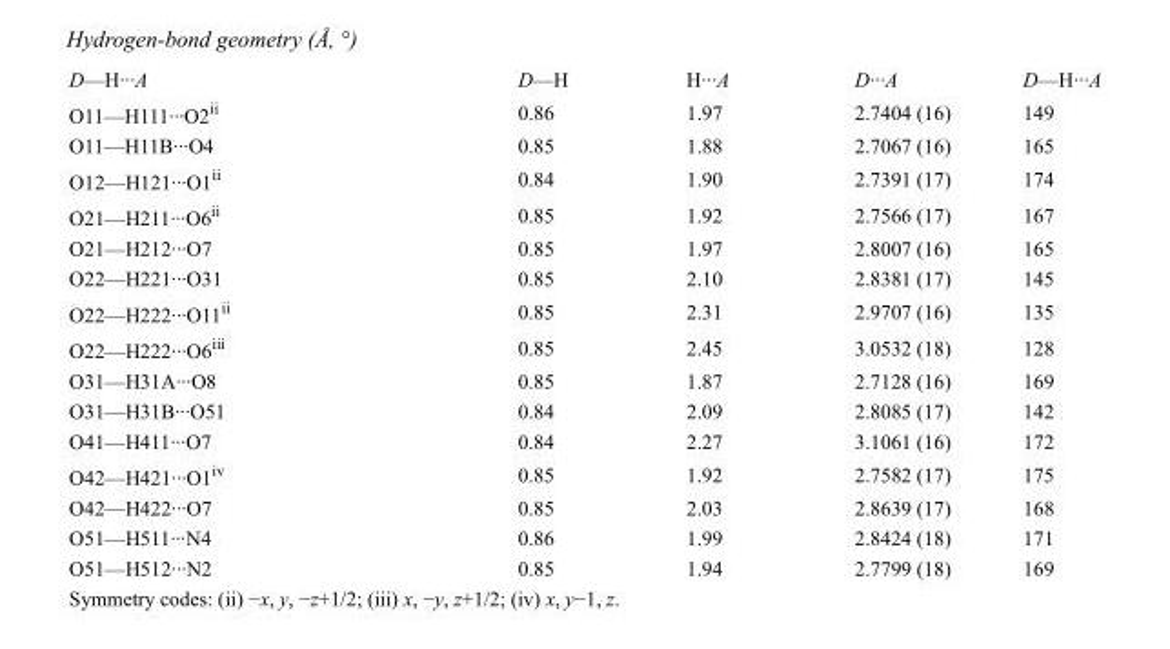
<table><tbody><tr><td>D—H···A</td><td>D—H</td><td>H···A</td><td>D···A</td><td>D—H···A</td></tr><tr><td>O11—H111···O2<sup>ii</sup></td><td>0.86</td><td>1.97</td><td>2.7404 (16)</td><td>149</td></tr><tr><td>O11—H11B···O4</td><td>0.85</td><td>1.88</td><td>2.7067 (16)</td><td>165</td></tr><tr><td>O12—H121···O1<sup>ii</sup></td><td>0.84</td><td>1.90</td><td>2.7391 (17)</td><td>174</td></tr><tr><td>O21—H211···O6<sup>ii</sup></td><td>0.85</td><td>1.92</td><td>2.7566 (17)</td><td>167</td></tr><tr><td>O21—H212···O7</td><td>0.85</td><td>1.97</td><td>2.8007 (16)</td><td>165</td></tr><tr><td>O22—H221···O31</td><td>0.85</td><td>2.10</td><td>2.8381 (17)</td><td>145</td></tr><tr><td>O22—H222···O11<sup>ii</sup></td><td>0.85</td><td>2.31</td><td>2.9707 (16)</td><td>135</td></tr><tr><td>O22—H222···O6<sup>iii</sup></td><td>0.85</td><td>2.45</td><td>3.0532 (18)</td><td>128</td></tr><tr><td>O31—H31A···O8</td><td>0.85</td><td>1.87</td><td>2.7128 (16)</td><td>169</td></tr><tr><td>O31—H31B···O51</td><td>0.84</td><td>2.09</td><td>2.8085 (17)</td><td>142</td></tr><tr><td>O41—H411···O7</td><td>0.84</td><td>2.27</td><td>3.1061 (16)</td><td>172</td></tr><tr><td>O42—H421···O1<sup>iv</sup></td><td>0.85</td><td>1.92</td><td>2.7582 (17)</td><td>175</td></tr><tr><td>O42—H422···O7</td><td>0.85</td><td>2.03</td><td>2.8639 (17)</td><td>168</td></tr><tr><td>O51—H511···N4</td><td>0.86</td><td>1.99</td><td>2.8424 (18)</td><td>171</td></tr><tr><td>O51—H512···N2</td><td>0.85</td><td>1.94</td><td>2.7799 (18)</td><td>169</td></tr></tbody></table>